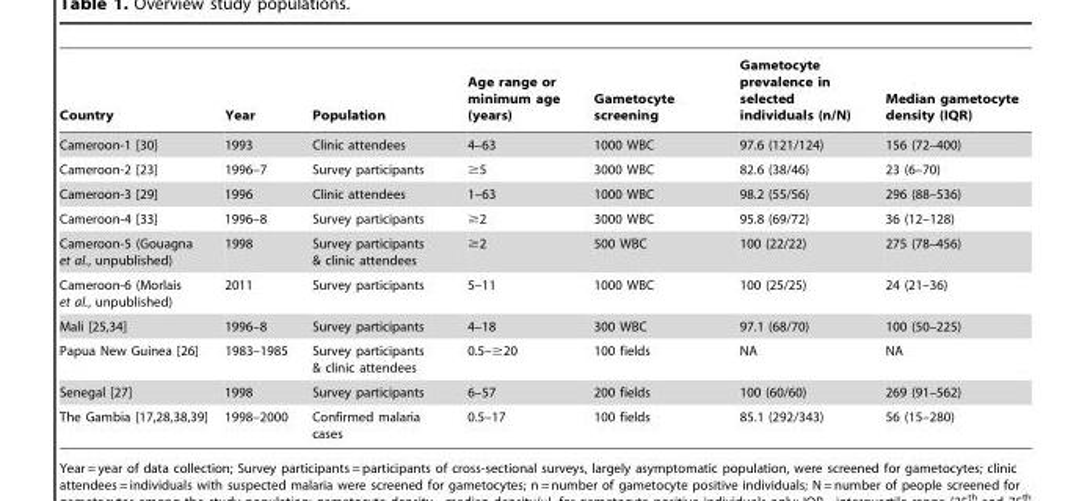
<table><thead><tr><td>Country</td><td>Year</td><td>Population</td><td>Age range or minimum age (years)</td><td>Gametocyte screening</td><td>Gametocyte prevalence in selected individuals (n/N)</td><td>Median gametocyte density (IQR)</td></tr></thead><tbody><tr><td>Cameroon-1 [30]</td><td>1993</td><td>Clinic attendees</td><td>4–63</td><td>1000 WBC</td><td>97.6 (121/124)</td><td>156 (72–400)</td></tr><tr><td>Cameroon-2 [23]</td><td>1996–7</td><td>Survey participants</td><td>≥5</td><td>3000 WBC</td><td>82.6 (38/46)</td><td>23 (6–70)</td></tr><tr><td>Cameroon-3 [29]</td><td>1996</td><td>Clinic attendees</td><td>1–63</td><td>1000 WBC</td><td>98.2 (55/56)</td><td>296 (88–536)</td></tr><tr><td>Cameroon-4 [33]</td><td>1996–8</td><td>Survey participants</td><td>≥2</td><td>3000 WBC</td><td>95.8 (69/72)</td><td>36 (12–128)</td></tr><tr><td>Cameroon-5 (Gouagna et al., unpublished)</td><td>1998</td><td>Survey participants &amp; clinic attendees</td><td>≥2</td><td>500 WBC</td><td>100 (22/22)</td><td>275 (78–456)</td></tr><tr><td>Cameroon-6 (Morlais et al., unpublished)</td><td>2011</td><td>Survey participants</td><td>5–11</td><td>1000 WBC</td><td>100 (25/25)</td><td>24 (21–36)</td></tr><tr><td>Mali [25,34]</td><td>1996–8</td><td>Survey participants</td><td>4–18</td><td>300 WBC</td><td>97.1 (68/70)</td><td>100 (50–225)</td></tr><tr><td>Papua New Guinea [26]</td><td>1983–1985</td><td>Survey participants &amp; clinic attendees</td><td>0.5–≥20</td><td>100 fields</td><td>NA</td><td>NA</td></tr><tr><td>Senegal [27]</td><td>1998</td><td>Survey participants</td><td>6–57</td><td>200 fields</td><td>100 (60/60)</td><td>269 (91–562)</td></tr><tr><td>The Gambia [17,28,38,39]</td><td>1998–2000</td><td>Confirmed malaria cases</td><td>0.5–17</td><td>100 fields</td><td>85.1 (292/343)</td><td>56 (15–280)</td></tr></tbody></table>